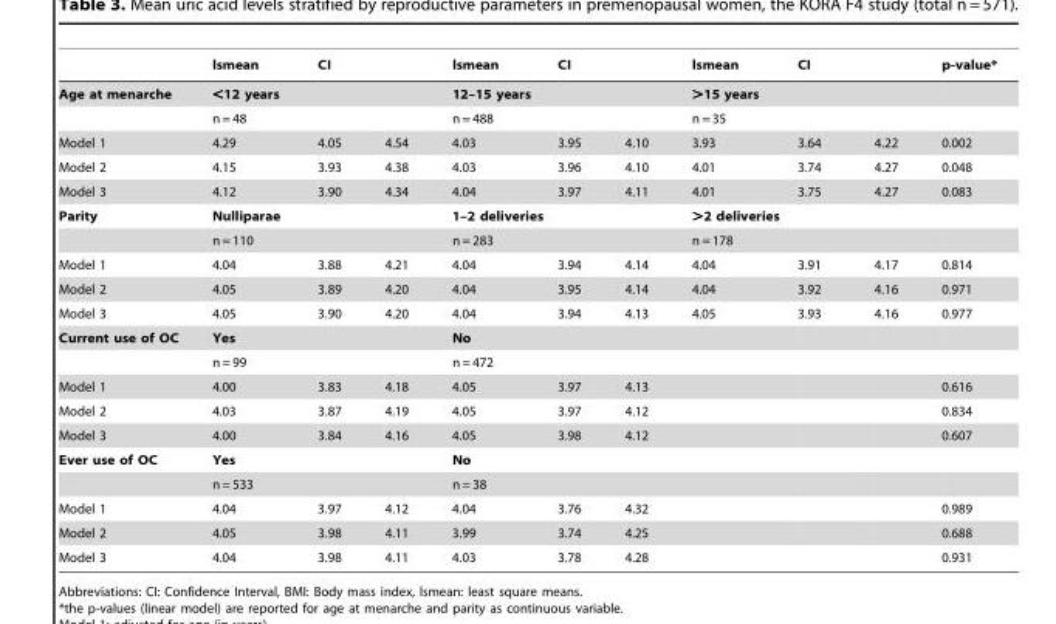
<table><thead><tr><td rowspan="4">Age at menarche Model 1</td><td>lsmean</td><td colspan="2">CI</td><td>lsmean</td><td colspan="2">CI</td><td>lsmean</td><td colspan="2">CI</td><td rowspan="4">p-value* 0.002</td></tr><tr><td rowspan="2" colspan="3">&lt;12 years n = 48</td><td rowspan="2" colspan="3">12–15 years n = 488</td><td rowspan="2" colspan="3">&gt;15 years n = 35</td></tr><tr></tr><tr><td>4.29</td><td>4.05</td><td>4.54</td><td>4.03</td><td>3.95</td><td>4.10</td><td>3.93</td><td>3.64</td><td>4.22</td></tr></thead><tbody><tr><td>Model 2</td><td>4.15</td><td>3.93</td><td>4.38</td><td>4.03</td><td>3.96</td><td>4.10</td><td>4.01</td><td>3.74</td><td>4.27</td><td>0.048</td></tr><tr><td>Model 3</td><td>4.12</td><td>3.90</td><td>4.34</td><td>4.04</td><td>3.97</td><td>4.11</td><td>4.01</td><td>3.75</td><td>4.27</td><td>0.083</td></tr><tr><td rowspan="2">Parity</td><td colspan="3">Nulliparae</td><td colspan="3">1–2 deliveries</td><td colspan="3">&gt;2 deliveries</td><td></td></tr><tr><td colspan="3">n = 110</td><td colspan="3">n = 283</td><td colspan="3">n = 178</td><td></td></tr><tr><td>Model 1</td><td>4.04</td><td>3.88</td><td>4.21</td><td>4.04</td><td>3.94</td><td>4.14</td><td>4.04</td><td>3.91</td><td>4.17</td><td>0.814</td></tr><tr><td>Model 2</td><td>4.05</td><td>3.89</td><td>4.20</td><td>4.04</td><td>3.95</td><td>4.14</td><td>4.04</td><td>3.92</td><td>4.16</td><td>0.971</td></tr><tr><td>Model 3</td><td>4.05</td><td>3.90</td><td>4.20</td><td>4.04</td><td>3.94</td><td>4.13</td><td>4.05</td><td>3.93</td><td>4.16</td><td>0.977</td></tr><tr><td rowspan="2">Current use of OC</td><td colspan="3">Yes</td><td colspan="3">No</td><td></td><td></td><td></td><td></td></tr><tr><td colspan="3">n = 99</td><td colspan="3">n = 472</td><td></td><td></td><td></td><td></td></tr><tr><td>Model 1</td><td>4.00</td><td>3.83</td><td>4.18</td><td>4.05</td><td>3.97</td><td>4.13</td><td></td><td></td><td></td><td>0.616</td></tr><tr><td>Model 2</td><td>4.03</td><td>3.87</td><td>4.19</td><td>4.05</td><td>3.97</td><td>4.12</td><td></td><td></td><td></td><td>0.834</td></tr><tr><td>Model 3</td><td>4.00</td><td>3.84</td><td>4.16</td><td>4.05</td><td>3.98</td><td>4.12</td><td></td><td></td><td></td><td>0.607</td></tr><tr><td rowspan="2">Ever use of OC</td><td colspan="3">Yes</td><td colspan="3">No</td><td></td><td></td><td></td><td></td></tr><tr><td colspan="3">n = 533</td><td colspan="3">n = 38</td><td></td><td></td><td></td><td></td></tr><tr><td>Model 1</td><td>4.04</td><td>3.97</td><td>4.12</td><td>4.04</td><td>3.76</td><td>4.32</td><td></td><td></td><td></td><td>0.989</td></tr><tr><td>Model 2</td><td>4.05</td><td>3.98</td><td>4.11</td><td>3.99</td><td>3.74</td><td>4.25</td><td></td><td></td><td></td><td>0.688</td></tr><tr><td>Model 3</td><td>4.04</td><td>3.98</td><td>4.11</td><td>4.03</td><td>3.78</td><td>4.28</td><td></td><td></td><td></td><td>0.931</td></tr></tbody></table>